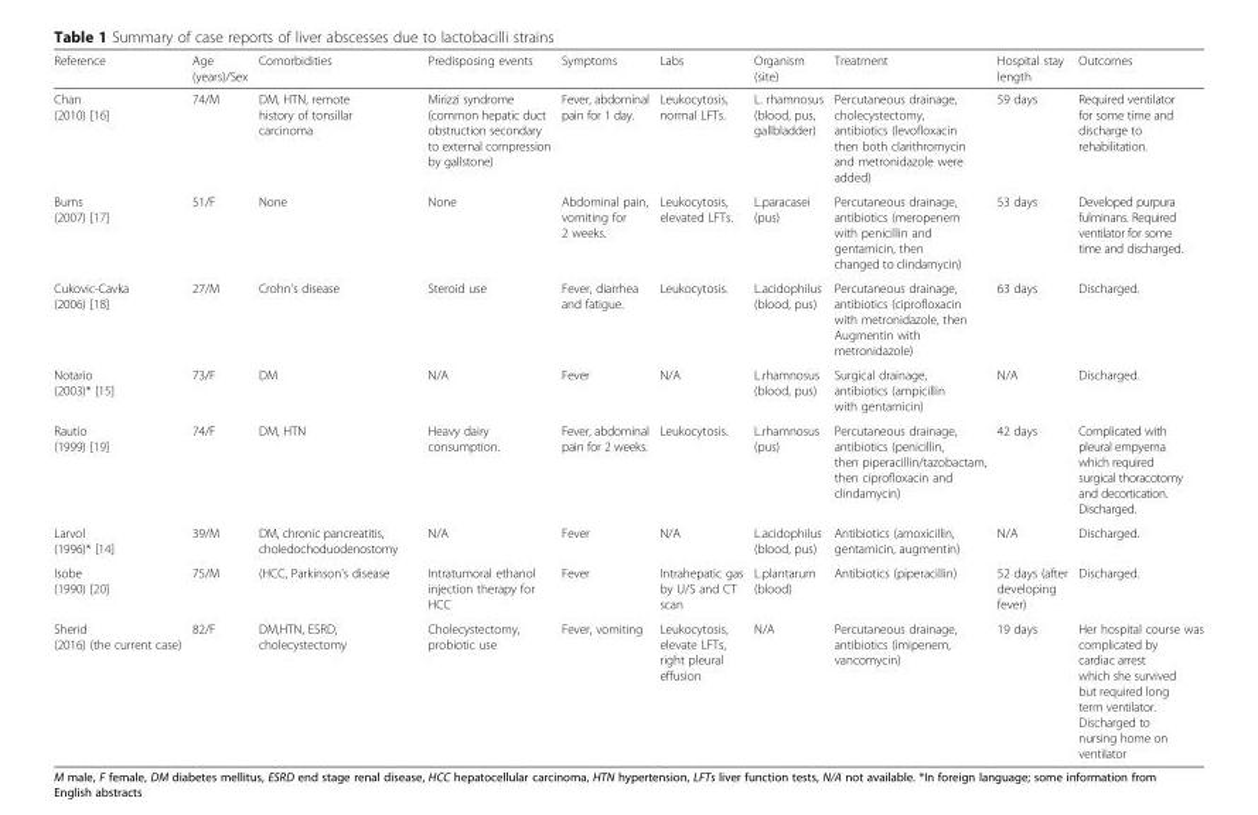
<table><thead><tr><td>Reference</td><td>Age (years)/Sex</td><td>Comorbidities</td><td>Predisposing events</td><td>Symptoms</td><td>Labs</td><td>Organism (site)</td><td>Treatment</td><td>Hospital stay length</td><td>Outcomes</td></tr></thead><tbody><tr><td>Chan (2010) [16]</td><td>74/M</td><td>DM, HTN, remote history of tonsillar carcinoma</td><td>Mirizzi syndrome (common hepatic duct obstruction secondary to external compression by gallstone)</td><td>Fever, abdominal pain for 1 day.</td><td>Leukocytosis, normal LFTs.</td><td>L. rhamnosus (blood, pus, gallbladder)</td><td>Percutaneous drainage, cholecystectomy, antibiotics (levofloxacin then both clarithromycin and metronidazole were added)</td><td>59 days</td><td>Required ventilator for some time and discharge to rehabilitation.</td></tr><tr><td>Burns (2007) [17]</td><td>51/F</td><td>None</td><td>None</td><td>Abdominal pain, vomiting for 2 weeks.</td><td>Leukocytosis, elevated LFTs.</td><td>L.paracasei (pus)</td><td>Percutaneous drainage, antibiotics (meropenem with penicillin and gentamicin, then changed to clindamycin)</td><td>53 days</td><td>Developed purpura fulminans. Required ventilator for some time and discharged.</td></tr><tr><td>Cukovic-Cavka (2006) [18]</td><td>27/M</td><td>Crohn’s disease</td><td>Steroid use</td><td>Fever, diarrhea and fatigue.</td><td>Leukocytosis.</td><td>L.acidophilus (blood, pus)</td><td>Percutaneous drainage, antibiotics (ciprofloxacin with metronidazole, then Augmentin with metronidazole)</td><td>63 days</td><td>Discharged.</td></tr><tr><td>Notario (2003)* [15]</td><td>73/F</td><td>DM</td><td>N/A</td><td>Fever</td><td>N/A</td><td>L.rhamnosus (blood, pus)</td><td>Surgical drainage, antibiotics (ampicillin with gentamicin)</td><td>N/A</td><td>Discharged.</td></tr><tr><td>Rautio (1999) [19]</td><td>74/F</td><td>DM, HTN</td><td>Heavy dairy consumption.</td><td>Fever, abdominal pain for 2 weeks.</td><td>Leukocytosis.</td><td>L.rhamnosus (pus)</td><td>Percutaneous drainage, antibiotics (penicillin, then piperacillin/tazobactam, then ciprofloxacin and clindamycin)</td><td>42 days</td><td>Complicated with pleural empyema which required surgical thoracotomy and decortication. Discharged.</td></tr><tr><td>Larvol (1996)* [14]</td><td>39/M</td><td>DM, chronic pancreatitis, choledochoduodenostomy</td><td>N/A</td><td>Fever</td><td>N/A</td><td>L.acidophilus (blood, pus)</td><td>Antibiotics (amoxicillin, gentamicin, augmentin)</td><td>N/A</td><td>Discharged.</td></tr><tr><td>Isobe (1990) [20]</td><td>75/M</td><td>(HCC, Parkinson’s disease</td><td>Intratumoral ethanol injection therapy for HCC</td><td>Fever</td><td>Intrahepatic gas by U/S and CT scan</td><td>L.plantarum (blood)</td><td>Antibiotics (piperacillin)</td><td>52 days (after developing fever)</td><td>Discharged.</td></tr><tr><td>Sherid (2016) (the current case)</td><td>82/F</td><td>DM,HTN, ESRD, cholecystectomy</td><td>Cholecystectomy, probiotic use</td><td>Fever, vomiting</td><td>Leukocytosis, elevate LFTs, right pleural effusion</td><td>N/A</td><td>Percutaneous drainage, antibiotics (imipenem, vancomycin)</td><td>19 days</td><td>Her hospital course was complicated by cardiac arrest which she survived but required long term ventilator. Discharged to nursing home on ventilator</td></tr></tbody></table>